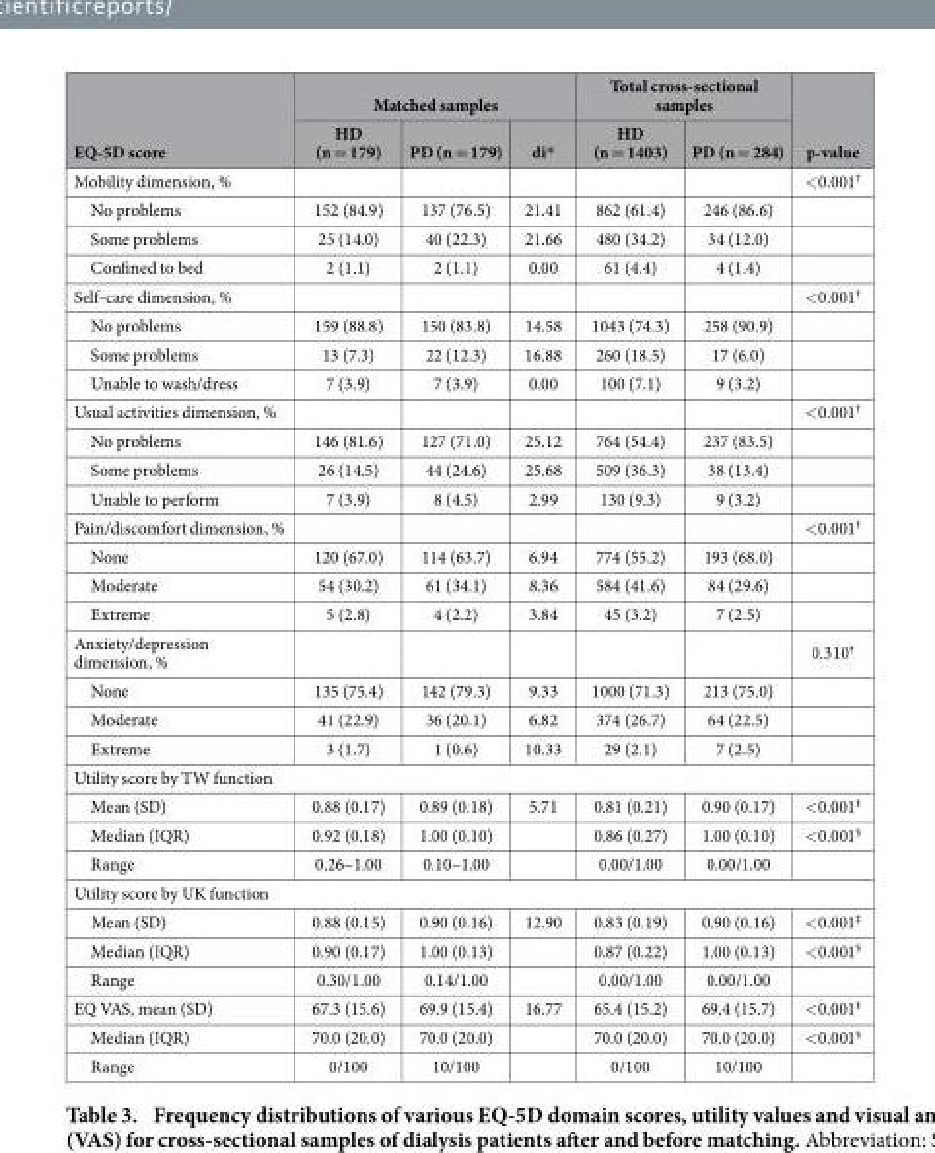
<table><thead><tr><td rowspan="2">EQ-5D score</td><td colspan="3">Matched samples</td><td colspan="2">Total cross-sectional samples</td><td rowspan="2">p-value</td></tr><tr><td>HD (n = 179)</td><td>PD (n = 179)</td><td>di*</td><td>HD (n = 1403)</td><td>PD (n = 284)</td></tr></thead><tbody><tr><td>Mobility dimension, %</td><td></td><td></td><td></td><td></td><td></td><td>&lt; 0.001†</td></tr><tr><td>No problems</td><td>152 (84.9)</td><td>137 (76.5)</td><td>21.41</td><td>862 (61.4)</td><td>246 (86.6)</td><td></td></tr><tr><td>Some problems</td><td>25 (14.0)</td><td>40 (22.3)</td><td>21.66</td><td>480 (34.2)</td><td>34 (12.0)</td><td></td></tr><tr><td>Confined to bed</td><td>2 (1.1)</td><td>2 (1.1)</td><td>0.00</td><td>61 (4.4)</td><td>4 (1.4)</td><td></td></tr><tr><td>Self-care dimension, %</td><td></td><td></td><td></td><td></td><td></td><td>&lt; 0.001†</td></tr><tr><td>No problems</td><td>159 (88.8)</td><td>150 (83.8)</td><td>14.58</td><td>1043 (74.3)</td><td>258 (90.9)</td><td></td></tr><tr><td>Some problems</td><td>13 (7.3)</td><td>22 (12.3)</td><td>16.88</td><td>260 (18.5)</td><td>17 (6.0)</td><td></td></tr><tr><td>Unable to wash/dress</td><td>7 (3.9)</td><td>7 (3.9)</td><td>0.00</td><td>100 (7.1)</td><td>9 (3.2)</td><td></td></tr><tr><td>Usual activities dimension, %</td><td></td><td></td><td></td><td></td><td></td><td>&lt; 0.001†</td></tr><tr><td>No problems</td><td>146 (81.6)</td><td>127 (71.0)</td><td>25.12</td><td>764 (54.4)</td><td>237 (83.5)</td><td></td></tr><tr><td>Some problems</td><td>26 (14.5)</td><td>44 (24.6)</td><td>25.68</td><td>509 (36.3)</td><td>38 (13.4)</td><td></td></tr><tr><td>Unable to perform</td><td>7 (3.9)</td><td>8 (4.5)</td><td>2.99</td><td>130 (9.3)</td><td>9 (3.2)</td><td></td></tr><tr><td>Pain/discomfort dimension, %</td><td></td><td></td><td></td><td></td><td></td><td>&lt; 0.001†</td></tr><tr><td>None</td><td>120 (67.0)</td><td>114 (63.7)</td><td>6.94</td><td>774 (55.2)</td><td>193 (68.0)</td><td></td></tr><tr><td>Moderate</td><td>54 (30.2)</td><td>61 (34.1)</td><td>8.36</td><td>584 (41.6)</td><td>84 (29.6)</td><td></td></tr><tr><td>Extreme</td><td>5 (2.8)</td><td>4 (2.2)</td><td>3.84</td><td>45 (3.2)</td><td>7 (2.5)</td><td></td></tr><tr><td>Anxiety/depression dimension, %</td><td></td><td></td><td></td><td></td><td></td><td>0.310†</td></tr><tr><td>None</td><td>135 (75.4)</td><td>142 (79.3)</td><td>9.33</td><td>1000 (71.3)</td><td>213 (75.0)</td><td></td></tr><tr><td>Moderate</td><td>41 (22.9)</td><td>36 (20.1)</td><td>6.82</td><td>374 (26.7)</td><td>64 (22.5)</td><td></td></tr><tr><td>Extreme</td><td>3 (1.7)</td><td>1 (0.6)</td><td>10.33</td><td>29 (2.1)</td><td>7 (2.5)</td><td></td></tr><tr><td colspan="7">Utility score by TW function</td></tr><tr><td>Mean (SD)</td><td>0.88 (0.17)</td><td>0.89 (0.18)</td><td>5.71</td><td>0.81 (0.21)</td><td>0.90 (0.17)</td><td>&lt; 0.001‡</td></tr><tr><td>Median (IQR)</td><td>0.92 (0.18)</td><td>1.00 (0.10)</td><td></td><td>0.86 (0.27)</td><td>1.00 (0.10)</td><td>&lt; 0.001§</td></tr><tr><td>Range</td><td>0.26–1.00</td><td>0.10–1.00</td><td></td><td>0.00/1.00</td><td>0.00/1.00</td><td></td></tr><tr><td colspan="7">Utility score by UK function</td></tr><tr><td>Mean (SD)</td><td>0.88 (0.15)</td><td>0.90 (0.16)</td><td>12.90</td><td>0.83 (0.19)</td><td>0.90 (0.16)</td><td>&lt; 0.001‡</td></tr><tr><td>Median (IQR)</td><td>0.90 (0.17)</td><td>1.00 (0.13)</td><td></td><td>0.87 (0.22)</td><td>1.00 (0.13)</td><td>&lt; 0.001§</td></tr><tr><td>Range</td><td>0.30/1.00</td><td>0.14/1.00</td><td></td><td>0.00/1.00</td><td>0.00/1.00</td><td></td></tr><tr><td>EQ VAS, mean (SD)</td><td>67.3 (15.6)</td><td>69.9 (15.4)</td><td>16.77</td><td>65.4 (15.2)</td><td>69.4 (15.7)</td><td>&lt; 0.001‡</td></tr><tr><td>Median (IQR)</td><td>70.0 (20.0)</td><td>70.0 (20.0)</td><td></td><td>70.0 (20.0)</td><td>70.0 (20.0)</td><td>&lt; 0.001§</td></tr><tr><td>Range</td><td>0/100</td><td>10/100</td><td></td><td>0/100</td><td>10/100</td><td></td></tr></tbody></table>